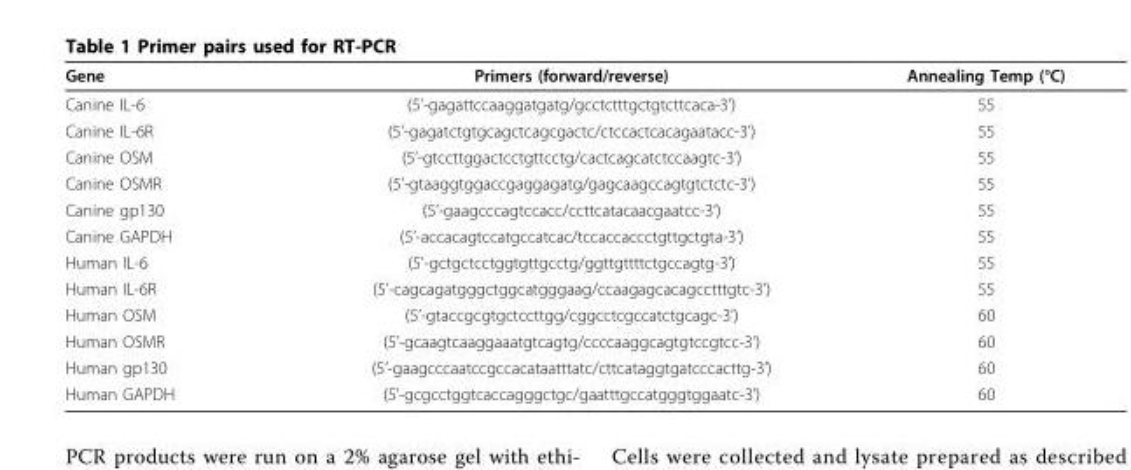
<table><thead><tr><td>Gene</td><td>Primers (forward/reverse)</td><td>Annealing Temp (°C)</td></tr></thead><tbody><tr><td>Canine IL-6</td><td>(5’-gagattccaaggatgatg/gcctctttgctgtcttcaca-3’)</td><td>55</td></tr><tr><td>Canine IL-6R</td><td>(5’-gagatctgtgcagctcagcgactc/ctccactcacagaatacc-3’)</td><td>55</td></tr><tr><td>Canine OSM</td><td>(5’-gtccttggactcctgttcctg/cactcagcatctccaagtc-3’)</td><td>55</td></tr><tr><td>Canine OSMR</td><td>(5’-gtaaggtggaccgaggagatg/gagcaagccagtgtctctc-3’)</td><td>55</td></tr><tr><td>Canine gp130</td><td>(5’-gaagcccagtccacc/ccttcatacaacgaatcc-3’)</td><td>55</td></tr><tr><td>Canine GAPDH</td><td>(5’-accacagtccatgccatcac/tccaccaccctgttgctgta-3’)</td><td>55</td></tr><tr><td>Human IL-6</td><td>(5’-gctgctcctggtgttgcctg/ggttgttttctgccagtg-3’)</td><td>55</td></tr><tr><td>Human IL-6R</td><td>(5’-cagcagatgggctggcatgggaag/ccaagagcacagcctttgtc-3’)</td><td>55</td></tr><tr><td>Human OSM</td><td>(5’-gtaccgcgtgctccttgg/cggcctcgccatctgcagc-3’)</td><td>60</td></tr><tr><td>Human OSMR</td><td>(5’-gcaagtcaaggaaatgtcagtg/ccccaaggcagtgtccgtcc-3’)</td><td>60</td></tr><tr><td>Human gp130</td><td>(5’-gaagcccaatccgccacataatttatc/cttcataggtgatcccacttg-3’)</td><td>60</td></tr><tr><td>Human GAPDH</td><td>(5’-gcgcctggtcaccagggctgc/gaatttgccatgggtggaatc-3’)</td><td>60</td></tr></tbody></table>